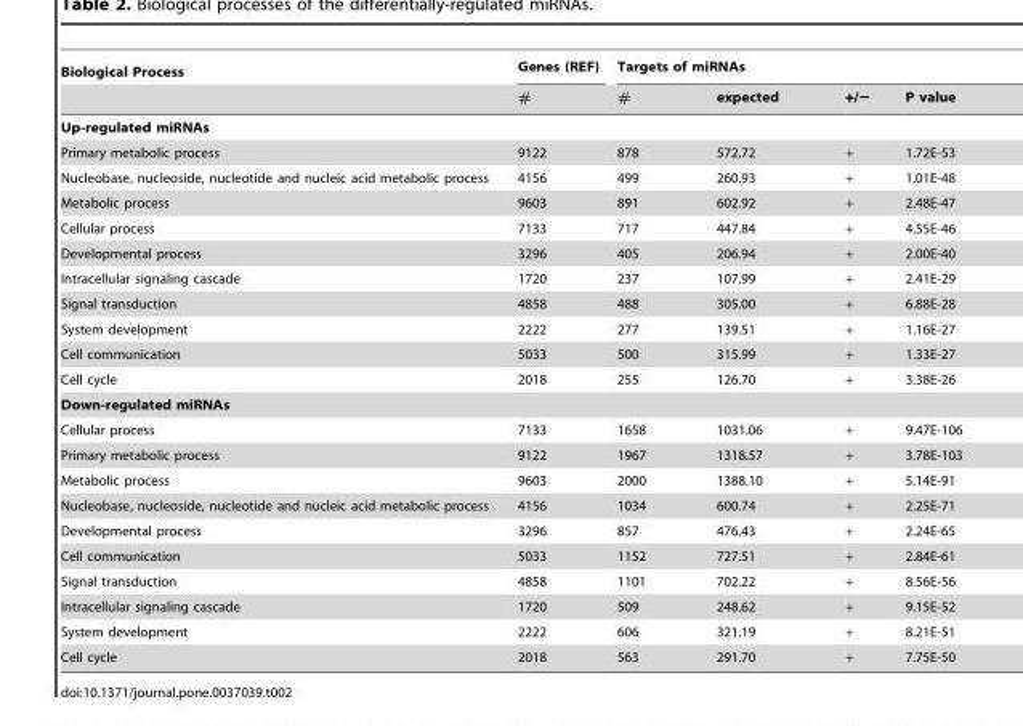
<table><thead><tr><td rowspan="2">Biological Process</td><td rowspan="2">Genes (REF) #</td><td colspan="4">Targets of miRNAs</td></tr><tr><td>#</td><td>expected</td><td>+/−</td><td>P value</td></tr></thead><tbody><tr><td colspan="6">Up-regulated miRNAs</td></tr><tr><td>Primary metabolic process</td><td>9122</td><td>878</td><td>572.72</td><td>+</td><td>1.72E-53</td></tr><tr><td>Nucleobase, nucleoside, nucleotide and nucleic acid metabolic process</td><td>4156</td><td>499</td><td>260.93</td><td>+</td><td>1.01E-48</td></tr><tr><td>Metabolic process</td><td>9603</td><td>891</td><td>602.92</td><td>+</td><td>2.48E-47</td></tr><tr><td>Cellular process</td><td>7133</td><td>717</td><td>447.84</td><td>+</td><td>4.55E-46</td></tr><tr><td>Developmental process</td><td>3296</td><td>405</td><td>206.94</td><td>+</td><td>2.00E-40</td></tr><tr><td>Intracellular signaling cascade</td><td>1720</td><td>237</td><td>107.99</td><td>+</td><td>2.41E-29</td></tr><tr><td>Signal transduction</td><td>4858</td><td>488</td><td>305.00</td><td>+</td><td>6.88E-28</td></tr><tr><td>System development</td><td>2222</td><td>277</td><td>139.51</td><td>+</td><td>1.16E-27</td></tr><tr><td>Cell communication</td><td>5033</td><td>500</td><td>315.99</td><td>+</td><td>1.33E-27</td></tr><tr><td>Cell cycle</td><td>2018</td><td>255</td><td>126.70</td><td>+</td><td>3.38E-26</td></tr><tr><td colspan="6">Down-regulated miRNAs</td></tr><tr><td>Cellular process</td><td>7133</td><td>1658</td><td>1031.06</td><td>+</td><td>9.47E-106</td></tr><tr><td>Primary metabolic process</td><td>9122</td><td>1967</td><td>1318.57</td><td>+</td><td>3.78E-103</td></tr><tr><td>Metabolic process</td><td>9603</td><td>2000</td><td>1388.10</td><td>+</td><td>5.14E-91</td></tr><tr><td>Nucleobase, nucleoside, nucleotide and nucleic acid metabolic process</td><td>4156</td><td>1034</td><td>600.74</td><td>+</td><td>2.25E-71</td></tr><tr><td>Developmental process</td><td>3296</td><td>857</td><td>476.43</td><td>+</td><td>2.24E-65</td></tr><tr><td>Cell communication</td><td>5033</td><td>1152</td><td>727.51</td><td>+</td><td>2.84E-61</td></tr><tr><td>Signal transduction</td><td>4858</td><td>1101</td><td>702.22</td><td>+</td><td>8.56E-56</td></tr><tr><td>Intracellular signaling cascade</td><td>1720</td><td>509</td><td>248.62</td><td>+</td><td>9.15E-52</td></tr><tr><td>System development</td><td>2222</td><td>606</td><td>321.19</td><td>+</td><td>8.21E-51</td></tr><tr><td>Cell cycle</td><td>2018</td><td>563</td><td>291.70</td><td>+</td><td>7.75E-50</td></tr></tbody></table>